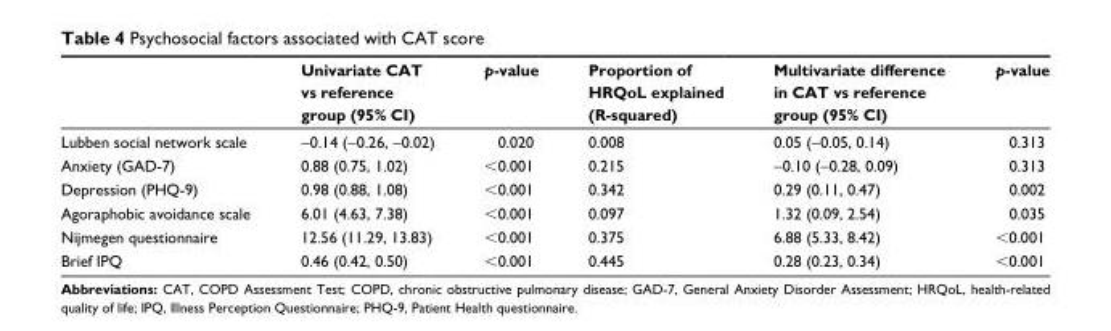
<table><thead><tr><td></td><td>Univariate CAT vs reference group (95% CI)</td><td>p-value</td><td>Proportion of HRQoL explained (R-squared)</td><td>Multivariate difference in CAT vs reference group (95% CI)</td><td>p-value</td></tr></thead><tbody><tr><td>lubben social network scale</td><td>−0.14 (−0.26, −0.02)</td><td>0.020</td><td>0.008</td><td>0.05 (−0.05, 0.14)</td><td>0.313</td></tr><tr><td>anxiety (gaD-7)</td><td>0.88 (0.75, 1.02)</td><td>&lt;0.001</td><td>0.215</td><td>−0.10 (−0.28, 0.09)</td><td>0.313</td></tr><tr><td>Depression (PhQ-9)</td><td>0.98 (0.88, 1.08)</td><td>&lt;0.001</td><td>0.342</td><td>0.29 (0.11, 0.47)</td><td>0.002</td></tr><tr><td>agoraphobic avoidance scale</td><td>6.01 (4.63, 7.38)</td><td>&lt;0.001</td><td>0.097</td><td>1.32 (0.09, 2.54)</td><td>0.035</td></tr><tr><td>nijmegen questionnaire</td><td>12.56 (11.29, 13.83)</td><td>&lt;0.001</td><td>0.375</td><td>6.88 (5.33, 8.42)</td><td>&lt;0.001</td></tr><tr><td>Brief IPQ</td><td>0.46 (0.42, 0.50)</td><td>&lt;0.001</td><td>0.445</td><td>0.28 (0.23, 0.34)</td><td>&lt;0.001</td></tr></tbody></table>